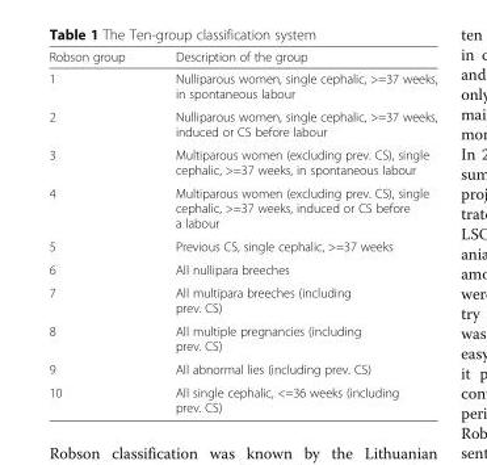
<table><thead><tr><td>Robson group</td><td>Description of the group</td></tr></thead><tbody><tr><td>1</td><td>Nulliparous women, single cephalic, &gt;=37 weeks, in spontaneous labour</td></tr><tr><td>2</td><td>Nulliparous women, single cephalic, &gt;=37 weeks, induced or CS before labour</td></tr><tr><td>3</td><td>Multiparous women (excluding prev. CS), single cephalic, &gt;=37 weeks, in spontaneous labour</td></tr><tr><td>4</td><td>Multiparous women (excluding prev. CS), single cephalic, &gt;=37 weeks, induced or CS before a labour</td></tr><tr><td>5</td><td>Previous CS, single cephalic, &gt;=37 weeks</td></tr><tr><td>6</td><td>All nullipara breeches</td></tr><tr><td>7</td><td>All multipara breeches (including prev. CS)</td></tr><tr><td>8</td><td>All multiple pregnancies (including prev. CS)</td></tr><tr><td>9</td><td>All abnormal lies (including prev. CS)</td></tr><tr><td>10</td><td>All single cephalic, &lt;=36 weeks (including prev. CS)</td></tr></tbody></table>